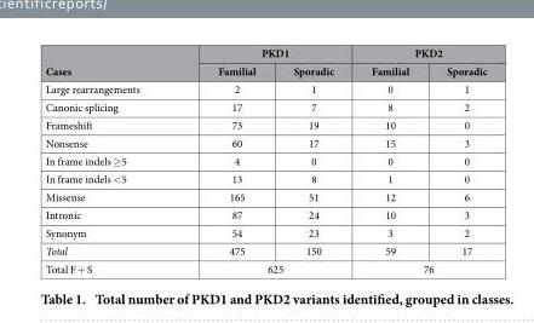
<table><thead><tr><td rowspan="2">Cases</td><td colspan="2">PKD1</td><td colspan="2">PKD2</td></tr><tr><td>Familial</td><td>Sporadic</td><td>Familial</td><td>Sporadic</td></tr></thead><tbody><tr><td>Large rearrangements</td><td>2</td><td>1</td><td>0</td><td>1</td></tr><tr><td>Canonic splicing</td><td>17</td><td>7</td><td>8</td><td>2</td></tr><tr><td>Frameshift</td><td>73</td><td>19</td><td>10</td><td>0</td></tr><tr><td>Nonsense</td><td>60</td><td>17</td><td>15</td><td>3</td></tr><tr><td>In frame indels ≥ 5</td><td>4</td><td>0</td><td>0</td><td>0</td></tr><tr><td>In frame indels &lt; 5</td><td>13</td><td>8</td><td>1</td><td>0</td></tr><tr><td>Missense</td><td>165</td><td>51</td><td>12</td><td>6</td></tr><tr><td>Intronic</td><td>87</td><td>24</td><td>10</td><td>3</td></tr><tr><td>Synonym</td><td>54</td><td>23</td><td>3</td><td>2</td></tr><tr><td>Total</td><td>475</td><td>150</td><td>59</td><td>17</td></tr><tr><td>Total F + S</td><td colspan="2">625</td><td colspan="2">76</td></tr></tbody></table>